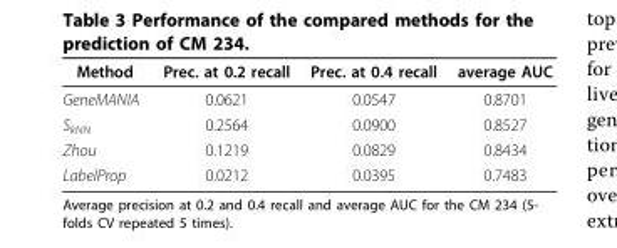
<table><thead><tr><td>Method</td><td>Prec. at 0.2 recall</td><td>Prec. at 0.4 recall</td><td>average AUC</td></tr></thead><tbody><tr><td>GeneMANIA</td><td>0.0621</td><td>0.0547</td><td>0.8701</td></tr><tr><td>S<sub>kNN</sub></td><td>0.2564</td><td>0.0900</td><td>0.8527</td></tr><tr><td>Zhou</td><td>0.1219</td><td>0.0829</td><td>0.8434</td></tr><tr><td>LabelProp</td><td>0.0212</td><td>0.0395</td><td>0.7483</td></tr></tbody></table>